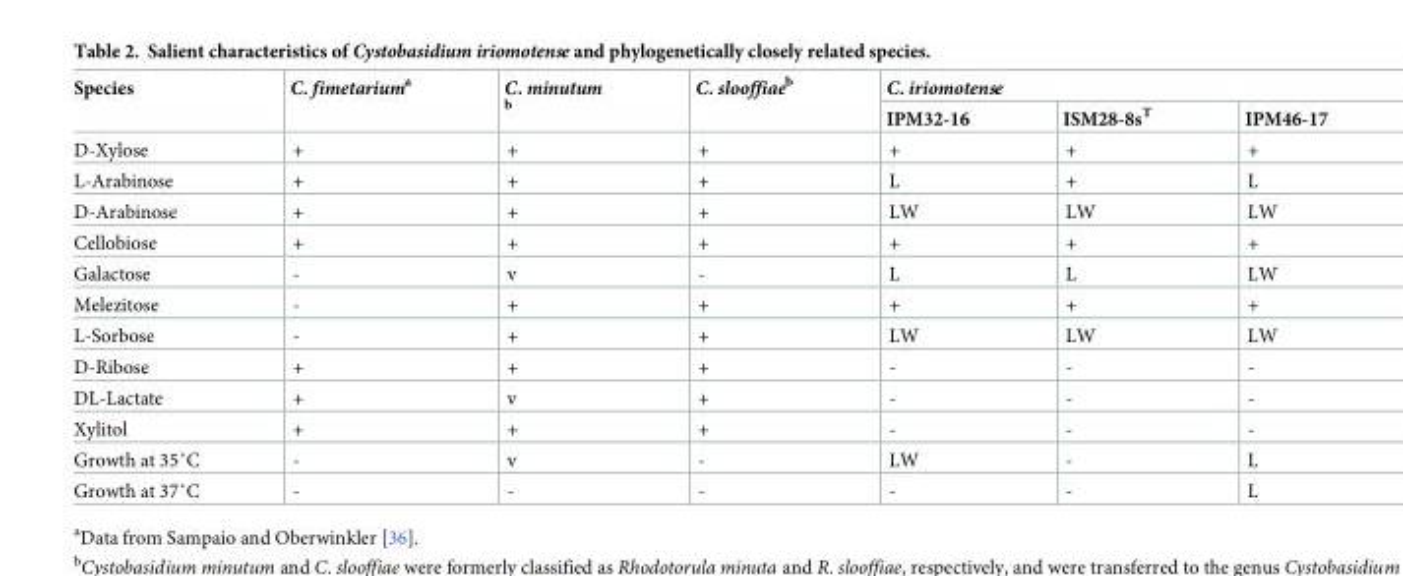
<table><thead><tr><td rowspan="2">Species</td><td rowspan="2">C. fimetarium<sup>a</sup></td><td rowspan="2">C. minutum <sup>b</sup></td><td rowspan="2">C. slooffiae<sup>b</sup></td><td colspan="3">C. iriomotense</td></tr><tr><td>IPM32-16</td><td>ISM28-8s<sup>T</sup></td><td>IPM46-17</td></tr></thead><tbody><tr><td>D-Xylose</td><td>+</td><td>+</td><td>+</td><td>+</td><td>+</td><td>+</td></tr><tr><td>L-Arabinose</td><td>+</td><td>+</td><td>+</td><td>L</td><td>+</td><td>L</td></tr><tr><td>D-Arabinose</td><td>+</td><td>+</td><td>+</td><td>LW</td><td>LW</td><td>LW</td></tr><tr><td>Cellobiose</td><td>+</td><td>+</td><td>+</td><td>+</td><td>+</td><td>+</td></tr><tr><td>Galactose</td><td>-</td><td>v</td><td>-</td><td>L</td><td>L</td><td>LW</td></tr><tr><td>Melezitose</td><td>-</td><td>+</td><td>+</td><td>+</td><td>+</td><td>+</td></tr><tr><td>L-Sorbose</td><td>-</td><td>+</td><td>+</td><td>LW</td><td>LW</td><td>LW</td></tr><tr><td>D-Ribose</td><td>+</td><td>+</td><td>+</td><td>-</td><td>-</td><td>-</td></tr><tr><td>DL-Lactate</td><td>+</td><td>v</td><td>+</td><td>-</td><td>-</td><td>-</td></tr><tr><td>Xylitol</td><td>+</td><td>+</td><td>+</td><td>-</td><td>-</td><td>-</td></tr><tr><td>Growth at 35˚C</td><td>-</td><td>v</td><td>-</td><td>LW</td><td>-</td><td>L</td></tr><tr><td>Growth at 37˚C</td><td>-</td><td>-</td><td>-</td><td>-</td><td>-</td><td>L</td></tr></tbody></table>